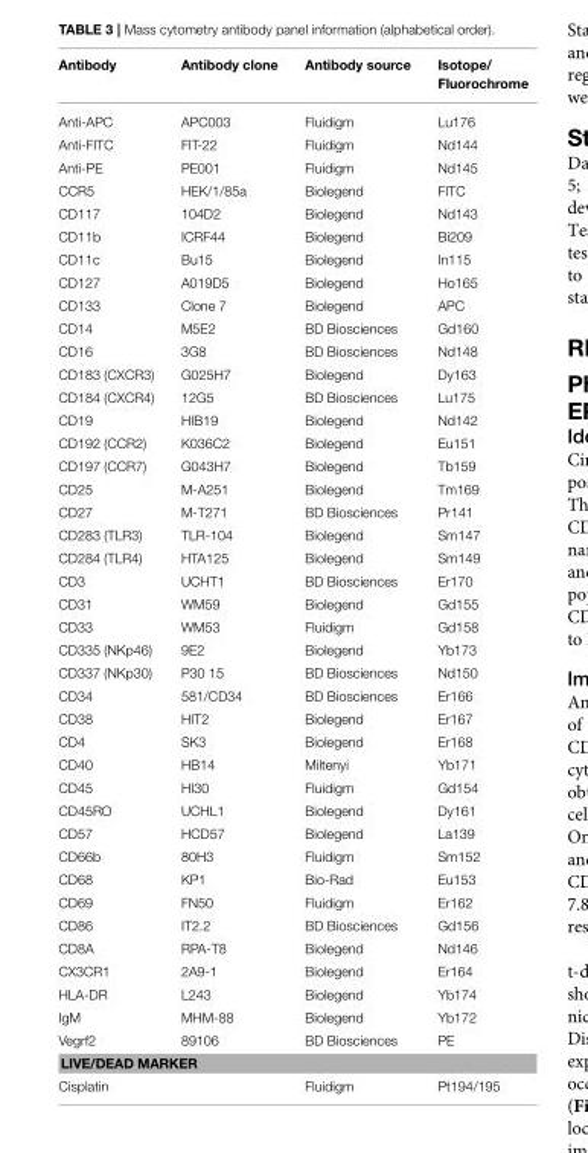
<table><thead><tr><td>Antibody</td><td>Antibody clone</td><td>Antibody source</td><td>Isotope/ Fluorochrome</td></tr></thead><tbody><tr><td>Anti-APC</td><td>APC003</td><td>Fluidigm</td><td>Lu176</td></tr><tr><td>Anti-FITC</td><td>FIT-22</td><td>Fluidigm</td><td>Nd144</td></tr><tr><td>Anti-PE</td><td>PE001</td><td>Fluidigm</td><td>Nd145</td></tr><tr><td>CCR5</td><td>HEK/1/85a</td><td>Biolegend</td><td>FITC</td></tr><tr><td>CD117</td><td>104D2</td><td>Biolegend</td><td>Nd143</td></tr><tr><td>CD11b</td><td>ICRF44</td><td>Biolegend</td><td>Bi209</td></tr><tr><td>CD11c</td><td>Bu15</td><td>Biolegend</td><td>In115</td></tr><tr><td>CD127</td><td>A019D5</td><td>Biolegend</td><td>Ho165</td></tr><tr><td>CD133</td><td>Clone 7</td><td>Biolegend</td><td>APC</td></tr><tr><td>CD14</td><td>M5E2</td><td>BD Biosciences</td><td>Gd160</td></tr><tr><td>CD16</td><td>3G8</td><td>BD Biosciences</td><td>Nd148</td></tr><tr><td>CD183 (CXCR3)</td><td>G025H7</td><td>Biolegend</td><td>Dy163</td></tr><tr><td>CD184 (CXCR4)</td><td>12G5</td><td>BD Biosciences</td><td>Lu175</td></tr><tr><td>CD19</td><td>HIB19</td><td>Biolegend</td><td>Nd142</td></tr><tr><td>CD192 (CCR2)</td><td>K036C2</td><td>Biolegend</td><td>Eu151</td></tr><tr><td>CD197 (CCR7)</td><td>G043H7</td><td>Biolegend</td><td>Tb159</td></tr><tr><td>CD25</td><td>M-A251</td><td>Biolegend</td><td>Tm169</td></tr><tr><td>CD27</td><td>M-T271</td><td>BD Biosciences</td><td>Pr141</td></tr><tr><td>CD283 (TLR3)</td><td>TLR-104</td><td>Biolegend</td><td>Sm147</td></tr><tr><td>CD284 (TLR4)</td><td>HTA125</td><td>Biolegend</td><td>Sm149</td></tr><tr><td>CD3</td><td>UCHT1</td><td>BD Biosciences</td><td>Er170</td></tr><tr><td>CD31</td><td>WM59</td><td>Biolegend</td><td>Gd155</td></tr><tr><td>CD33</td><td>WM53</td><td>Fluidigm</td><td>Gd158</td></tr><tr><td>CD335 (NKp46)</td><td>9E2</td><td>Biolegend</td><td>Yb173</td></tr><tr><td>CD337 (NKp30)</td><td>P30 15</td><td>BD Biosciences</td><td>Nd150</td></tr><tr><td>CD34</td><td>581/CD34</td><td>BD Biosciences</td><td>Er166</td></tr><tr><td>CD38</td><td>HIT2</td><td>Biolegend</td><td>Er167</td></tr><tr><td>CD4</td><td>SK3</td><td>Biolegend</td><td>Er168</td></tr><tr><td>CD40</td><td>HB14</td><td>Miltenyi</td><td>Yb171</td></tr><tr><td>CD45</td><td>HI30</td><td>Fluidigm</td><td>Gd154</td></tr><tr><td>CD45RO</td><td>UCHL1</td><td>Biolegend</td><td>Dy161</td></tr><tr><td>CD57</td><td>HCD57</td><td>Biolegend</td><td>La139</td></tr><tr><td>CD66b</td><td>80H3</td><td>Fluidigm</td><td>Sm152</td></tr><tr><td>CD68</td><td>KP1</td><td>Bio-Rad</td><td>Eu153</td></tr><tr><td>CD69</td><td>FN50</td><td>Fluidigm</td><td>Er162</td></tr><tr><td>CD86</td><td>IT2.2</td><td>BD Biosciences</td><td>Gd156</td></tr><tr><td>CD8A</td><td>RPA-T8</td><td>Biolegend</td><td>Nd146</td></tr><tr><td>CX3CR1</td><td>2A9-1</td><td>Biolegend</td><td>Er164</td></tr><tr><td>HLA-DR</td><td>L243</td><td>Biolegend</td><td>Yb174</td></tr><tr><td>IgM</td><td>MHM-88</td><td>Biolegend</td><td>Yb172</td></tr><tr><td>Vegrf2</td><td>89106</td><td>BD Biosciences</td><td>PE</td></tr><tr><td colspan="4">LIVE/DEAD MARKER</td></tr><tr><td>Cisplatin</td><td></td><td>Fluidigm</td><td>Pt194/195</td></tr></tbody></table>